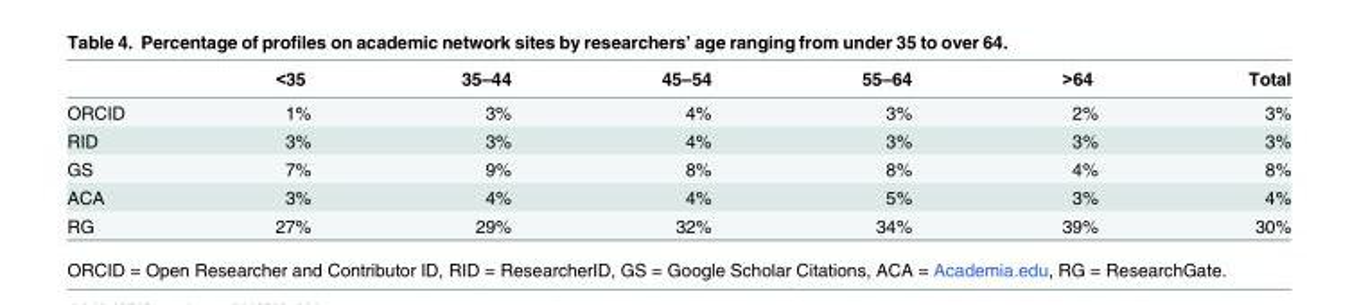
<table><thead><tr><td></td><td>&lt;35</td><td>35–44</td><td>45–54</td><td>55–64</td><td>&gt;64</td><td>Total</td></tr></thead><tbody><tr><td>ORCID</td><td>1%</td><td>3%</td><td>4%</td><td>3%</td><td>2%</td><td>3%</td></tr><tr><td>RID</td><td>3%</td><td>3%</td><td>4%</td><td>3%</td><td>3%</td><td>3%</td></tr><tr><td>GS</td><td>7%</td><td>9%</td><td>8%</td><td>8%</td><td>4%</td><td>8%</td></tr><tr><td>ACA</td><td>3%</td><td>4%</td><td>4%</td><td>5%</td><td>3%</td><td>4%</td></tr><tr><td>RG</td><td>27%</td><td>29%</td><td>32%</td><td>34%</td><td>39%</td><td>30%</td></tr></tbody></table>